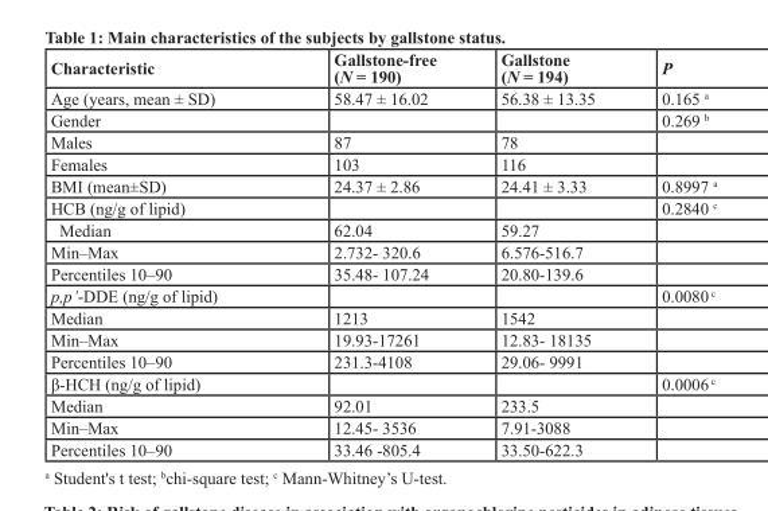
<table><thead><tr><td>characteristic</td><td>gallstone-free (N = 190)</td><td>gallstone (N = 194)</td><td>P</td></tr></thead><tbody><tr><td>Age (years, mean ± SD)</td><td>58.47 ± 16.02</td><td>56.38 ± 13.35</td><td>0.165 <sup>a</sup></td></tr><tr><td>Gender</td><td></td><td></td><td>0.269 <sup>b</sup></td></tr><tr><td>Males</td><td>87</td><td>78</td><td></td></tr><tr><td>Females</td><td>103</td><td>116</td><td></td></tr><tr><td>BMI (mean±SD)</td><td>24.37 ± 2.86</td><td>24.41 ± 3.33</td><td>0.8997 <sup>a</sup></td></tr><tr><td>HCB (ng/g of lipid)</td><td></td><td></td><td>0.2840 <sup>c</sup></td></tr><tr><td>Median</td><td>62.04</td><td>59.27</td><td></td></tr><tr><td>Min–Max</td><td>2.732- 320.6</td><td>6.576-516.7</td><td></td></tr><tr><td>Percentiles 10–90</td><td>35.48- 107.24</td><td>20.80-139.6</td><td></td></tr><tr><td>p,p’-DDE (ng/g of lipid)</td><td></td><td></td><td>0.0080 <sup>c</sup></td></tr><tr><td>Median</td><td>1213</td><td>1542</td><td></td></tr><tr><td>Min–Max</td><td>19.93-17261</td><td>12.83- 18135</td><td></td></tr><tr><td>Percentiles 10–90</td><td>231.3-4108</td><td>29.06- 9991</td><td></td></tr><tr><td>β-HCH (ng/g of lipid)</td><td></td><td></td><td>0.0006 <sup>c</sup></td></tr><tr><td>Median</td><td>92.01</td><td>233.5</td><td></td></tr><tr><td>Min–Max</td><td>12.45- 3536</td><td>7.91-3088</td><td></td></tr><tr><td>Percentiles 10–90</td><td>33.46 -805.4</td><td>33.50-622.3</td><td></td></tr></tbody></table>